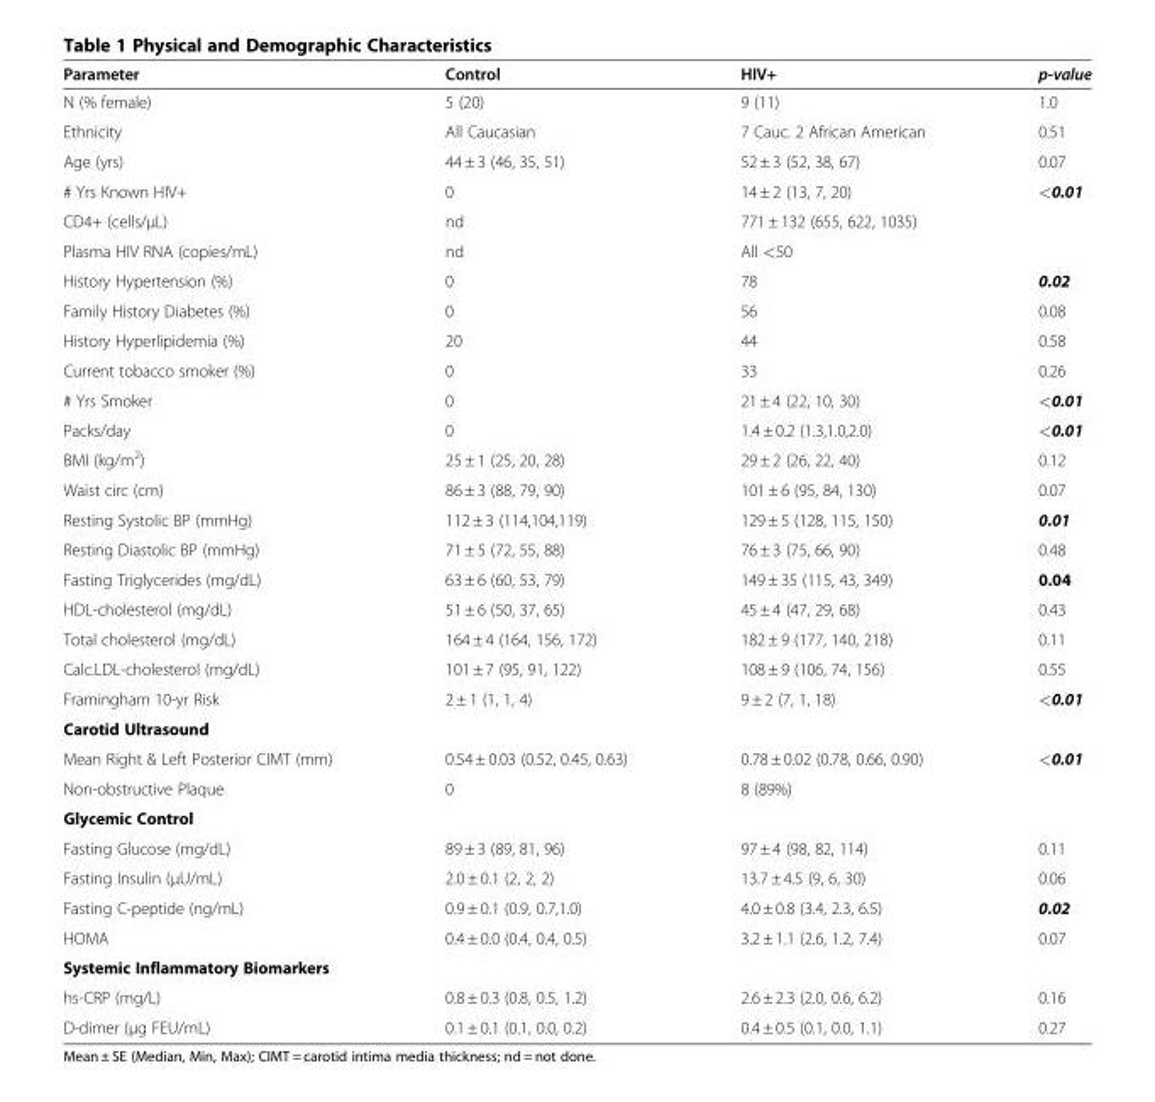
<table><thead><tr><td>Parameter</td><td>Control</td><td>HIV+</td><td>p-value</td></tr></thead><tbody><tr><td>N (% female)</td><td>5 (20)</td><td>9 (11)</td><td>1.0</td></tr><tr><td>Ethnicity</td><td>All Caucasian</td><td>7 Cauc. 2 African American</td><td>0.51</td></tr><tr><td>Age (yrs)</td><td>44 ± 3 (46, 35, 51)</td><td>52 ± 3 (52, 38, 67)</td><td>0.07</td></tr><tr><td># Yrs Known HIV+</td><td>0</td><td>14 ± 2 (13, 7, 20)</td><td>&lt;0.01</td></tr><tr><td>CD4+ (cells/μL)</td><td>nd</td><td>771 ± 132 (655, 622, 1035)</td><td></td></tr><tr><td>Plasma HIV RNA (copies/mL)</td><td>nd</td><td>All &lt;50</td><td></td></tr><tr><td>History Hypertension (%)</td><td>0</td><td>78</td><td>0.02</td></tr><tr><td>Family History Diabetes (%)</td><td>0</td><td>56</td><td>0.08</td></tr><tr><td>History Hyperlipidemia (%)</td><td>20</td><td>44</td><td>0.58</td></tr><tr><td>Current tobacco smoker (%)</td><td>0</td><td>33</td><td>0.26</td></tr><tr><td># Yrs Smoker</td><td>0</td><td>21 ± 4 (22, 10, 30)</td><td>&lt;0.01</td></tr><tr><td>Packs/day</td><td>0</td><td>1.4 ± 0.2 (1.3,1.0,2.0)</td><td>&lt;0.01</td></tr><tr><td>BMI (kg/m<sup>2</sup>)</td><td>25 ± 1 (25, 20, 28)</td><td>29 ± 2 (26, 22, 40)</td><td>0.12</td></tr><tr><td>Waist circ (cm)</td><td>86 ± 3 (88, 79, 90)</td><td>101 ± 6 (95, 84, 130)</td><td>0.07</td></tr><tr><td>Resting Systolic BP (mmHg)</td><td>112 ± 3 (114,104,119)</td><td>129 ± 5 (128, 115, 150)</td><td>0.01</td></tr><tr><td>Resting Diastolic BP (mmHg)</td><td>71 ± 5 (72, 55, 88)</td><td>76 ± 3 (75, 66, 90)</td><td>0.48</td></tr><tr><td>Fasting Triglycerides (mg/dL)</td><td>63 ± 6 (60, 53, 79)</td><td>149 ± 35 (115, 43, 349)</td><td>0.04</td></tr><tr><td>HDL-cholesterol (mg/dL)</td><td>51 ± 6 (50, 37, 65)</td><td>45 ± 4 (47, 29, 68)</td><td>0.43</td></tr><tr><td>Total cholesterol (mg/dL)</td><td>164 ± 4 (164, 156, 172)</td><td>182 ± 9 (177, 140, 218)</td><td>0.11</td></tr><tr><td>Calc.LDL-cholesterol (mg/dL)</td><td>101 ± 7 (95, 91, 122)</td><td>108 ± 9 (106, 74, 156)</td><td>0.55</td></tr><tr><td>Framingham 10-yr Risk</td><td>2 ± 1 (1, 1, 4)</td><td>9 ± 2 (7, 1, 18)</td><td>&lt;0.01</td></tr><tr><td colspan="4">Carotid Ultrasound</td></tr><tr><td>Mean Right &amp; Left Posterior CIMT (mm)</td><td>0.54 ± 0.03 (0.52, 0.45, 0.63)</td><td>0.78 ± 0.02 (0.78, 0.66, 0.90)</td><td>&lt;0.01</td></tr><tr><td>Non-obstructive Plaque</td><td>0</td><td>8 (89%)</td><td></td></tr><tr><td colspan="4">Glycemic Control</td></tr><tr><td>Fasting Glucose (mg/dL)</td><td>89 ± 3 (89, 81, 96)</td><td>97 ± 4 (98, 82, 114)</td><td>0.11</td></tr><tr><td>Fasting Insulin (μU/mL)</td><td>2.0 ± 0.1 (2, 2, 2)</td><td>13.7 ± 4.5 (9, 6, 30)</td><td>0.06</td></tr><tr><td>Fasting C-peptide (ng/mL)</td><td>0.9 ± 0.1 (0.9, 0.7,1.0)</td><td>4.0 ± 0.8 (3.4, 2.3, 6.5)</td><td>0.02</td></tr><tr><td>HOMA</td><td>0.4 ± 0.0 (0.4, 0.4, 0.5)</td><td>3.2 ± 1.1 (2.6, 1.2, 7.4)</td><td>0.07</td></tr><tr><td colspan="4">Systemic Inflammatory Biomarkers</td></tr><tr><td>hs-CRP (mg/L)</td><td>0.8 ± 0.3 (0.8, 0.5, 1.2)</td><td>2.6 ± 2.3 (2.0, 0.6, 6.2)</td><td>0.16</td></tr><tr><td>D-dimer (μg FEU/mL)</td><td>0.1 ± 0.1 (0.1, 0.0, 0.2)</td><td>0.4 ± 0.5 (0.1, 0.0, 1.1)</td><td>0.27</td></tr></tbody></table>